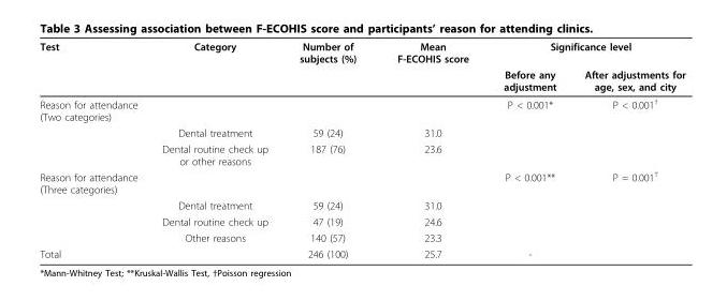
<table><thead><tr><td rowspan="2">Test</td><td rowspan="2">Category</td><td rowspan="2">Number of subjects (%)</td><td rowspan="2">Mean F-ECOHIS score</td><td colspan="2">Significance level</td></tr><tr><td>Before any adjustment</td><td>After adjustments for age, sex, and city</td></tr></thead><tbody><tr><td rowspan="3">Reason for attendance (Two categories)</td><td></td><td></td><td></td><td>P &lt; 0.001*</td><td>P &lt; 0.001<sup>†</sup></td></tr><tr><td>Dental treatment</td><td>59 (24)</td><td>31.0</td><td></td><td></td></tr><tr><td>Dental routine check up or other reasons</td><td>187 (76)</td><td>23.6</td><td></td><td></td></tr><tr><td rowspan="4">Reason for attendance (Three categories)</td><td></td><td></td><td></td><td>P &lt; 0.001**</td><td>P = 0.001<sup>†</sup></td></tr><tr><td>Dental treatment</td><td>59 (24)</td><td>31.0</td><td></td><td></td></tr><tr><td>Dental routine check up</td><td>47 (19)</td><td>24.6</td><td></td><td></td></tr><tr><td>Other reasons</td><td>140 (57)</td><td>23.3</td><td></td><td></td></tr><tr><td>Total</td><td></td><td>246 (100)</td><td>25.7</td><td>-</td><td></td></tr></tbody></table>